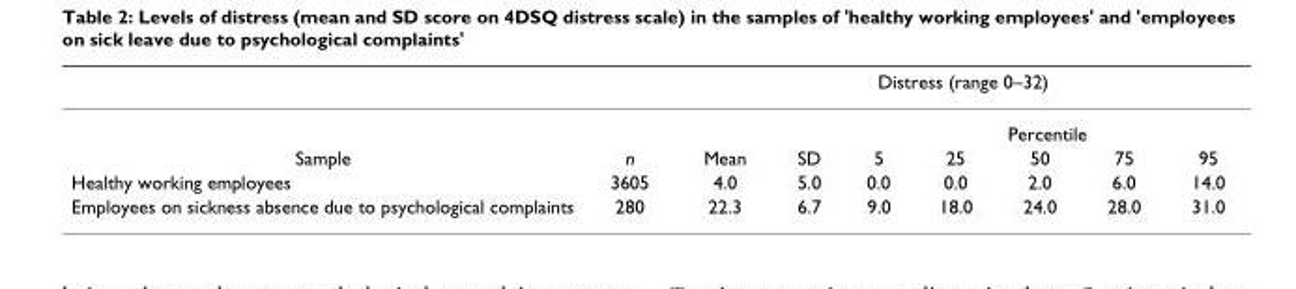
<table><thead><tr><td rowspan="3">Sample</td><td rowspan="3">n</td><td colspan="7">Distress (range 0–32)</td></tr><tr><td rowspan="2">Mean</td><td rowspan="2">SD</td><td colspan="5">Percentile</td></tr><tr><td>5</td><td>25</td><td>50</td><td>75</td><td>95</td></tr></thead><tbody><tr><td>Healthy working employees</td><td>3605</td><td>4.0</td><td>5.0</td><td>0.0</td><td>0.0</td><td>2.0</td><td>6.0</td><td>14.0</td></tr><tr><td>Employees on sickness absence due to psychological complaints</td><td>280</td><td>22.3</td><td>6.7</td><td>9.0</td><td>18.0</td><td>24.0</td><td>28.0</td><td>31.0</td></tr></tbody></table>